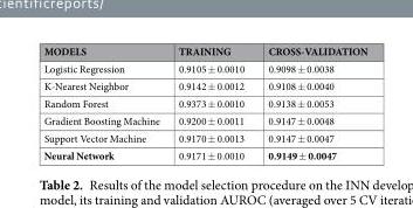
<table><thead><tr><td>MODELS</td><td>TRAINING</td><td>CROSS-VALIDATION</td></tr></thead><tbody><tr><td>Logistic Regression</td><td>0.9105 ± 0.0010</td><td>0.9098 ± 0.0038</td></tr><tr><td>K-Nearest Neighbor</td><td>0.9142 ± 0.0012</td><td>0.9108 ± 0.0040</td></tr><tr><td>Random Forest</td><td>0.9373 ± 0.0010</td><td>0.9138 ± 0.0053</td></tr><tr><td>Gradient Boosting Machine</td><td>0.9200 ± 0.0011</td><td>0.9147 ± 0.0048</td></tr><tr><td>Support Vector Machine</td><td>0.9170 ± 0.0013</td><td>0.9147 ± 0.0047</td></tr><tr><td>Neural Network</td><td>0.9171 ± 0.0010</td><td>0.9149 ± 0.0047</td></tr></tbody></table>